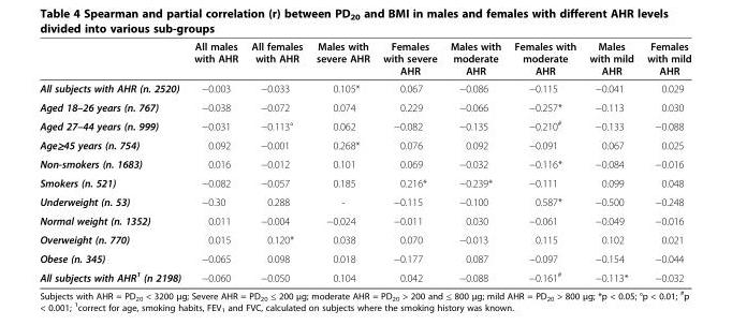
<table><thead><tr><td></td><td>All males with AHR</td><td>All females with AHR</td><td>Males with severe AHR</td><td>Females with severe AHR</td><td>Males with moderate AHR</td><td>Females with moderate AHR</td><td>Males with mild AHR</td><td>Females with mild AHR</td></tr></thead><tbody><tr><td>All subjects with AHR (n. 2520)</td><td>−0.003</td><td>−0.033</td><td>0.105*</td><td>0.067</td><td>−0.086</td><td>−0.115</td><td>−0.041</td><td>0.029</td></tr><tr><td>Aged 18–26 years (n. 767)</td><td>−0.038</td><td>−0.072</td><td>0.074</td><td>0.229</td><td>−0.066</td><td>−0.257*</td><td>−0.113</td><td>0.030</td></tr><tr><td>Aged 27–44 years (n. 999)</td><td>−0.031</td><td>−0.113°</td><td>0.062</td><td>−0.082</td><td>−0.135</td><td>−0.210<sup>#</sup></td><td>−0.133</td><td>−0.088</td></tr><tr><td>Age≥45 years (n. 754)</td><td>0.092</td><td>−0.001</td><td>0.268*</td><td>0.076</td><td>0.092</td><td>−0.091</td><td>0.067</td><td>0.025</td></tr><tr><td>Non-smokers (n. 1683)</td><td>0.016</td><td>−0.012</td><td>0.101</td><td>0.069</td><td>−0.032</td><td>−0.116*</td><td>−0.084</td><td>−0.016</td></tr><tr><td>Smokers (n. 521)</td><td>−0.082</td><td>−0.057</td><td>0.185</td><td>0.216*</td><td>−0.239*</td><td>−0.111</td><td>0.099</td><td>0.048</td></tr><tr><td>Underweight (n. 53)</td><td>−0.30</td><td>0.288</td><td>-</td><td>−0.115</td><td>−0.100</td><td>0.587*</td><td>−0.500</td><td>−0.248</td></tr><tr><td>Normal weight (n. 1352)</td><td>0.011</td><td>−0.004</td><td>−0.024</td><td>−0.011</td><td>0.030</td><td>−0.061</td><td>−0.049</td><td>−0.016</td></tr><tr><td>Overweight (n. 770)</td><td>0.015</td><td>0.120*</td><td>0.038</td><td>0.070</td><td>−0.013</td><td>0.115</td><td>0.102</td><td>0.021</td></tr><tr><td>Obese (n. 345)</td><td>−0.065</td><td>0.098</td><td>0.018</td><td>−0.177</td><td>0.087</td><td>−0.097</td><td>−0.154</td><td>−0.044</td></tr><tr><td>All subjects with AHR<sup>1</sup> (n 2198)</td><td>−0.060</td><td>−0.050</td><td>0.104</td><td>0.042</td><td>−0.088</td><td>−0.161<sup>#</sup></td><td>−0.113*</td><td>−0.032</td></tr></tbody></table>